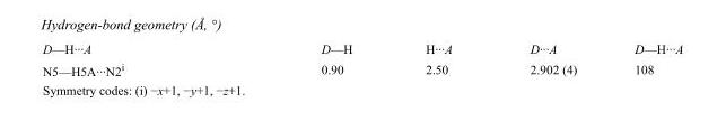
<table><tbody><tr><td>D—H···A</td><td>D—H</td><td>H···A</td><td>D···A</td><td>D—H···A</td></tr><tr><td>N5—H5A···N2<sup>i</sup></td><td>0.90</td><td>2.50</td><td>2.902 (4)</td><td>108</td></tr></tbody></table>